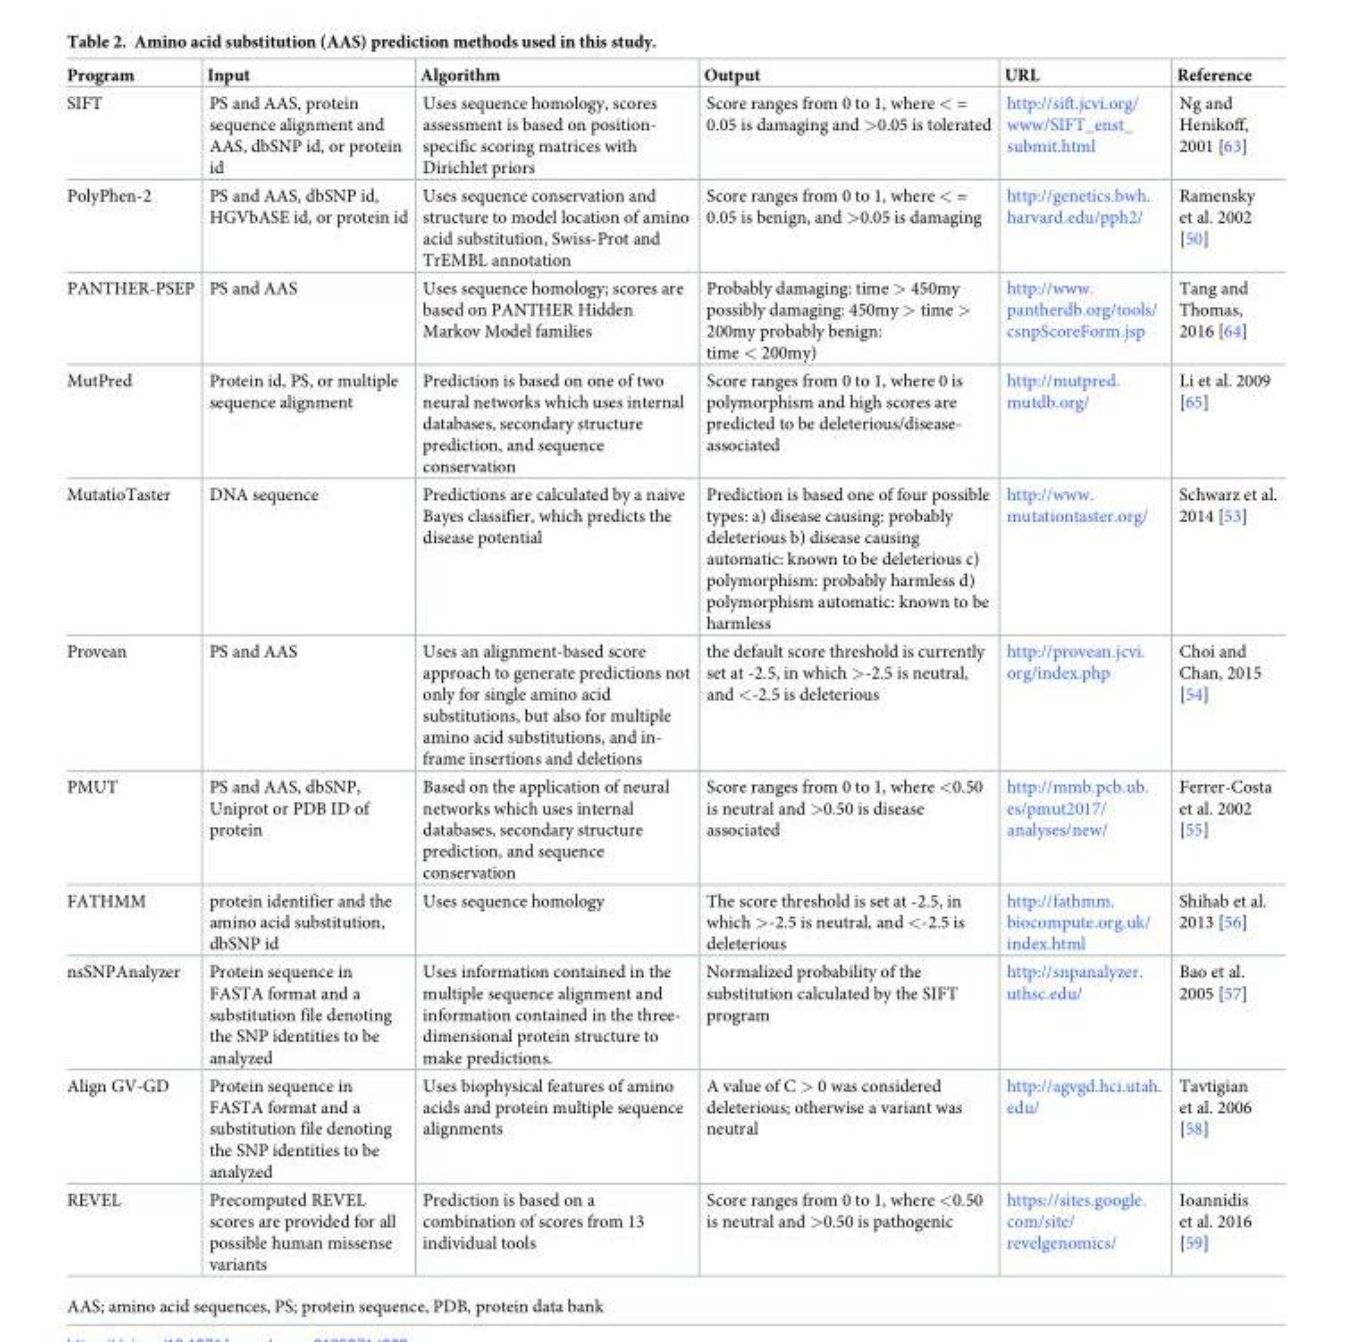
<table><thead><tr><td>Program</td><td>Input</td><td>Algorithm</td><td>Output</td><td>URL</td><td>Reference</td></tr></thead><tbody><tr><td>SIFT</td><td>PS and AAS, protein sequence alignment and AAS, dbSNP id, or protein id</td><td>Uses sequence homology, scores assessment is based on position- specific scoring matrices with Dirichlet priors</td><td>Score ranges from 0 to 1, where &lt; = 0.05 is damaging and &gt;0.05 is tolerated</td><td>http://sift.jcvi.org/ www/SIFT_enst_ submit.html</td><td>Ng and Henikoff, 2001 [63]</td></tr><tr><td>PolyPhen-2</td><td>PS and AAS, dbSNP id, HGVbASE id, or protein id</td><td>Uses sequence conservation and structure to model location of amino acid substitution, Swiss-Prot and TrEMBL annotation</td><td>Score ranges from 0 to 1, where &lt; = 0.05 is benign, and &gt;0.05 is damaging</td><td>http://genetics.bwh. harvard.edu/pph2/</td><td>Ramensky et al. 2002 [50]</td></tr><tr><td>PANTHER-PSEP</td><td>PS and AAS</td><td>Uses sequence homology; scores are based on PANTHER Hidden Markov Model families</td><td>Probably damaging: time &gt; 450my possibly damaging: 450my &gt; time &gt; 200my probably benign: time &lt; 200my)</td><td>http://www. pantherdb.org/tools/ csnpScoreForm.jsp</td><td>Tang and Thomas, 2016 [64]</td></tr><tr><td>MutPred</td><td>Protein id, PS, or multiple sequence alignment</td><td>Prediction is based on one of two neural networks which uses internal databases, secondary structure prediction, and sequence conservation</td><td>Score ranges from 0 to 1, where 0 is polymorphism and high scores are predicted to be deleterious/disease- associated</td><td>http://mutpred. mutdb.org/</td><td>Li et al. 2009 [65]</td></tr><tr><td>MutatioTaster</td><td>DNA sequence</td><td>Predictions are calculated by a naive Bayes classifier, which predicts the disease potential</td><td>Prediction is based one of four possible types: a) disease causing: probably deleterious b) disease causing automatic: known to be deleterious c) polymorphism: probably harmless d) polymorphism automatic: known to be harmless</td><td>http://www. mutationtaster.org/</td><td>Schwarz et al. 2014 [53]</td></tr><tr><td>Provean</td><td>PS and AAS</td><td>Uses an alignment-based score approach to generate predictions not only for single amino acid substitutions, but also for multiple amino acid substitutions, and in- frame insertions and deletions</td><td>the default score threshold is currently set at -2.5, in which &gt;-2.5 is neutral, and &lt;-2.5 is deleterious</td><td>http://provean.jcvi. org/index.php</td><td>Choi and Chan, 2015 [54]</td></tr><tr><td>PMUT</td><td>PS and AAS, dbSNP, Uniprot or PDB ID of protein</td><td>Based on the application of neural networks which uses internal databases, secondary structure prediction, and sequence conservation</td><td>Score ranges from 0 to 1, where &lt;0.50 is neutral and &gt;0.50 is disease associated</td><td>http://mmb.pcb.ub. es/pmut2017/ analyses/new/</td><td>Ferrer-Costa et al. 2002 [55]</td></tr><tr><td>FATHMM</td><td>protein identifier and the amino acid substitution, dbSNP id</td><td>Uses sequence homology</td><td>The score threshold is set at -2.5, in which &gt;-2.5 is neutral, and &lt;-2.5 is deleterious</td><td>http://fathmm. biocompute.org.uk/ index.html</td><td>Shihab et al. 2013 [56]</td></tr><tr><td>nsSNPAnalyzer</td><td>Protein sequence in FASTA format and a substitution file denoting the SNP identities to be analyzed</td><td>Uses information contained in the multiple sequence alignment and information contained in the three- dimensional protein structure to make predictions.</td><td>Normalized probability of the substitution calculated by the SIFT program</td><td>http://snpanalyzer. uthsc.edu/</td><td>Bao et al. 2005 [57]</td></tr><tr><td>Align GV-GD</td><td>Protein sequence in FASTA format and a substitution file denoting the SNP identities to be analyzed</td><td>Uses biophysical features of amino acids and protein multiple sequence alignments</td><td>A value of C &gt; 0 was considered deleterious; otherwise a variant was neutral</td><td>http://agvgd.hci.utah. edu/</td><td>Tavtigian et al. 2006 [58]</td></tr><tr><td>REVEL</td><td>Precomputed REVEL scores are provided for all possible human missense variants</td><td>Prediction is based on a combination of scores from 13 individual tools</td><td>Score ranges from 0 to 1, where &lt;0.50 is neutral and &gt;0.50 is pathogenic</td><td>https://sites.google. com/site/ revelgenomics/</td><td>Ioannidis et al. 2016 [59]</td></tr></tbody></table>